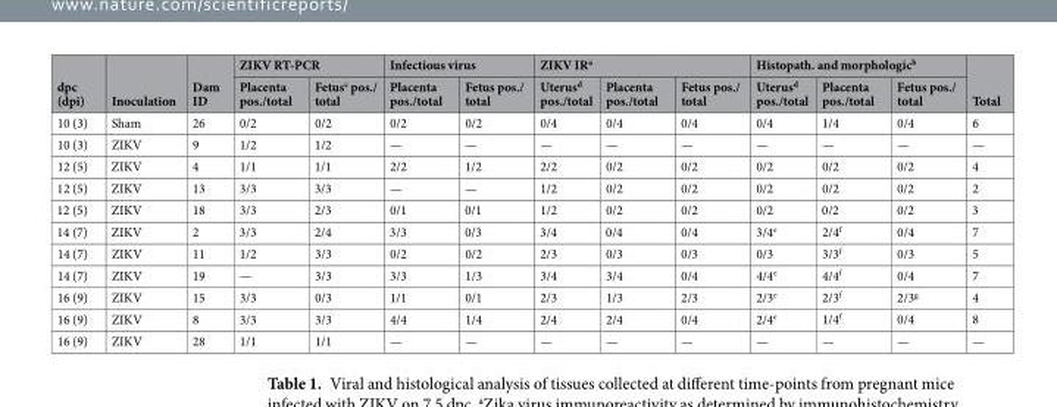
<table><thead><tr><td rowspan="2">dpc (dpi)</td><td rowspan="2">Inoculation</td><td rowspan="2">Dam ID</td><td colspan="2">ZIKV RT-PCR</td><td colspan="2">Infectious virus</td><td colspan="3">ZIKV IR<sup>a</sup></td><td colspan="3">Histopath. and morphologic<sup>b</sup></td><td rowspan="2">Total</td></tr><tr><td>Placenta pos./total</td><td>Fetus<sup>c</sup> pos./ total</td><td>Placenta pos./total</td><td>Fetus pos./ total</td><td>Uterus<sup>d</sup> pos./total</td><td>Placenta pos./total</td><td>Fetus pos./ total</td><td>Uterus<sup>d</sup> pos./total</td><td>Placenta pos./total</td><td>Fetus pos./ total</td></tr></thead><tbody><tr><td>10 (3)</td><td>Sham</td><td>26</td><td>0/2</td><td>0/2</td><td>0/2</td><td>0/2</td><td>0/4</td><td>0/4</td><td>0/4</td><td>0/4</td><td>1/4</td><td>0/4</td><td>6</td></tr><tr><td>10 (3)</td><td>ZIKV</td><td>9</td><td>1/2</td><td>1/2</td><td>—</td><td>—</td><td>—</td><td>—</td><td>—</td><td>—</td><td>—</td><td>—</td><td>—</td></tr><tr><td>12 (5)</td><td>ZIKV</td><td>4</td><td>1/1</td><td>1/1</td><td>2/2</td><td>1/2</td><td>2/2</td><td>0/2</td><td>0/2</td><td>0/2</td><td>0/2</td><td>0/2</td><td>4</td></tr><tr><td>12 (5)</td><td>ZIKV</td><td>13</td><td>3/3</td><td>3/3</td><td>—</td><td>—</td><td>1/2</td><td>0/2</td><td>0/2</td><td>0/2</td><td>0/2</td><td>0/2</td><td>2</td></tr><tr><td>12 (5)</td><td>ZIKV</td><td>18</td><td>3/3</td><td>2/3</td><td>0/1</td><td>0/1</td><td>1/2</td><td>0/2</td><td>0/2</td><td>0/2</td><td>0/2</td><td>0/2</td><td>3</td></tr><tr><td>14 (7)</td><td>ZIKV</td><td>2</td><td>3/3</td><td>2/4</td><td>3/3</td><td>0/3</td><td>3/4</td><td>0/4</td><td>0/4</td><td>3/4<sup>e</sup></td><td>2/4<sup>f</sup></td><td>0/4</td><td>7</td></tr><tr><td>14 (7)</td><td>ZIKV</td><td>11</td><td>1/2</td><td>3/3</td><td>0/2</td><td>0/2</td><td>2/3</td><td>0/3</td><td>0/3</td><td>0/3</td><td>3/3<sup>f</sup></td><td>0/3</td><td>5</td></tr><tr><td>14 (7)</td><td>ZIKV</td><td>19</td><td>—</td><td>3/3</td><td>3/3</td><td>1/3</td><td>3/4</td><td>3/4</td><td>0/4</td><td>4/4<sup>e</sup></td><td>4/4<sup>f</sup></td><td>0/4</td><td>7</td></tr><tr><td>16 (9)</td><td>ZIKV</td><td>15</td><td>3/3</td><td>0/3</td><td>1/1</td><td>0/1</td><td>2/3</td><td>1/3</td><td>2/3</td><td>2/3<sup>e</sup></td><td>2/3<sup>f</sup></td><td>2/3<sup>g</sup></td><td>4</td></tr><tr><td>16 (9)</td><td>ZIKV</td><td>8</td><td>3/3</td><td>3/3</td><td>4/4</td><td>1/4</td><td>2/4</td><td>2/4</td><td>0/4</td><td>2/4<sup>e</sup></td><td>1/4<sup>f</sup></td><td>0/4</td><td>8</td></tr><tr><td>16 (9)</td><td>ZIKV</td><td>28</td><td>1/1</td><td>1/1</td><td>—</td><td>—</td><td>—</td><td>—</td><td>—</td><td>—</td><td>—</td><td>—</td><td>—</td></tr></tbody></table>